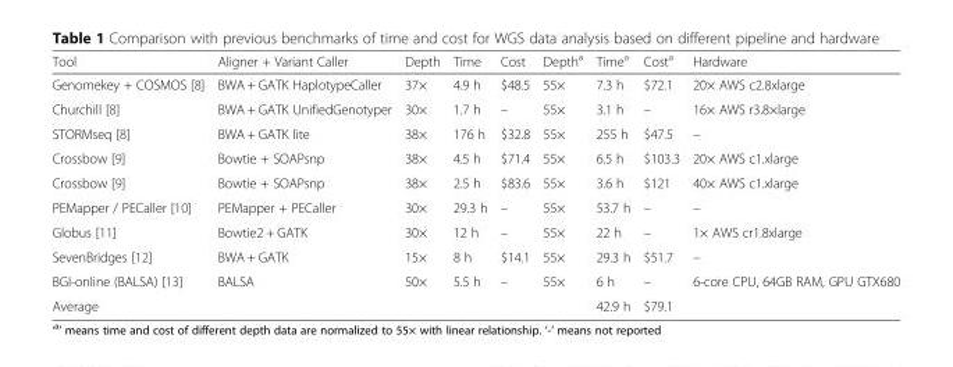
<table><thead><tr><td>Tool</td><td>Aligner + Variant Caller</td><td>Depth</td><td>Time</td><td>Cost</td><td>Depth<sup>a</sup></td><td>Time<sup>a</sup></td><td>Cost<sup>a</sup></td><td>Hardware</td></tr></thead><tbody><tr><td>Genomekey + COSMOS [8]</td><td>BWA + GATK HaplotypeCaller</td><td>37×</td><td>4.9 h</td><td>$48.5</td><td>55×</td><td>7.3 h</td><td>$72.1</td><td>20× AWS c2.8xlarge</td></tr><tr><td>Churchill [8]</td><td>BWA + GATK UnifiedGenotyper</td><td>30×</td><td>1.7 h</td><td>–</td><td>55×</td><td>3.1 h</td><td>–</td><td>16× AWS r3.8×large</td></tr><tr><td>STORMseq [8]</td><td>BWA + GATK lite</td><td>38×</td><td>176 h</td><td>$32.8</td><td>55×</td><td>255 h</td><td>$47.5</td><td>–</td></tr><tr><td>Crossbow [9]</td><td>Bowtie + SOAPsnp</td><td>38×</td><td>4.5 h</td><td>$71.4</td><td>55×</td><td>6.5 h</td><td>$103.3</td><td>20× AWS c1.xlarge</td></tr><tr><td>Crossbow [9]</td><td>Bowtie + SOAPsnp</td><td>38×</td><td>2.5 h</td><td>$83.6</td><td>55×</td><td>3.6 h</td><td>$121</td><td>40× AWS c1.xlarge</td></tr><tr><td>PEMapper / PECaller [10]</td><td>PEMapper + PECaller</td><td>30×</td><td>29.3 h</td><td>–</td><td>55×</td><td>53.7 h</td><td>–</td><td>–</td></tr><tr><td>Globus [11]</td><td>Bowtie2 + GATK</td><td>30×</td><td>12 h</td><td>–</td><td>55×</td><td>22 h</td><td>–</td><td>1× AWS cr1.8xlarge</td></tr><tr><td>SevenBridges [12]</td><td>BWA + GATK</td><td>15×</td><td>8 h</td><td>$14.1</td><td>55×</td><td>29.3 h</td><td>$51.7</td><td>–</td></tr><tr><td>BGI-online (BALSA) [13]</td><td>BALSA</td><td>50×</td><td>5.5 h</td><td>–</td><td>55×</td><td>6 h</td><td>–</td><td>6-core CPU, 64GB RAM, GPU GTX680</td></tr><tr><td>Average</td><td></td><td></td><td></td><td></td><td></td><td>42.9 h</td><td>$79.1</td><td></td></tr></tbody></table>